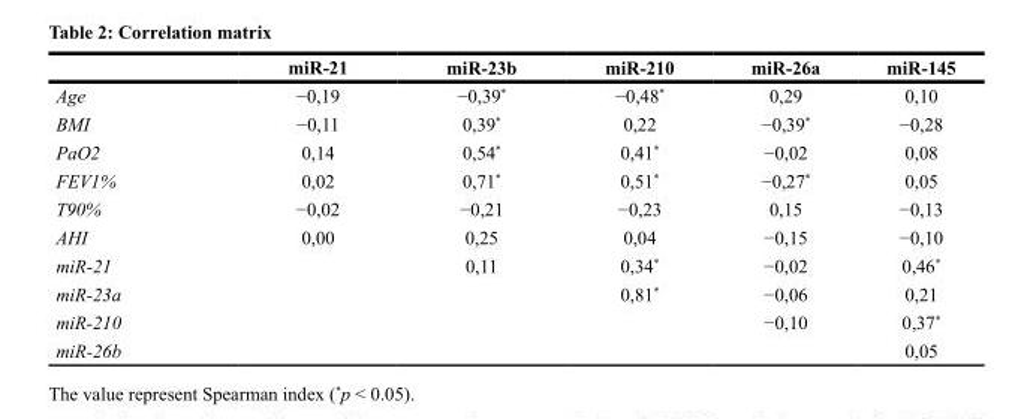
<table><thead><tr><td></td><td>miR-21</td><td>miR-23b</td><td>miR-210</td><td>miR-26a</td><td>miR-145</td></tr></thead><tbody><tr><td>Age</td><td>−0,19</td><td>−0,39*</td><td>−0,48*</td><td>0,29</td><td>0,10</td></tr><tr><td>BMI</td><td>−0,11</td><td>0,39*</td><td>0,22</td><td>−0,39*</td><td>−0,28</td></tr><tr><td>PaO2</td><td>0,14</td><td>0,54*</td><td>0,41*</td><td>−0,02</td><td>0,08</td></tr><tr><td>FEV1%</td><td>0,02</td><td>0,71*</td><td>0,51*</td><td>−0,27*</td><td>0,05</td></tr><tr><td>T90%</td><td>−0,02</td><td>−0,21</td><td>−0,23</td><td>0,15</td><td>−0,13</td></tr><tr><td>AHI</td><td>0,00</td><td>0,25</td><td>0,04</td><td>−0,15</td><td>−0,10</td></tr><tr><td>miR-21</td><td></td><td>0,11</td><td>0,34*</td><td>−0,02</td><td>0,46*</td></tr><tr><td>miR-23a</td><td></td><td></td><td>0,81*</td><td>−0,06</td><td>0,21</td></tr><tr><td>miR-210</td><td></td><td></td><td></td><td>−0,10</td><td>0,37*</td></tr><tr><td>miR-26b</td><td></td><td></td><td></td><td></td><td>0,05</td></tr></tbody></table>